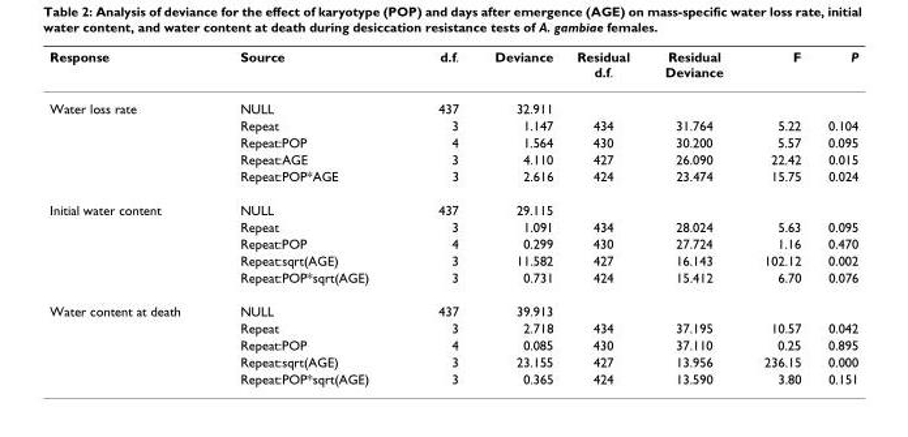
<table><thead><tr><td>Response</td><td>Source</td><td>d.f.</td><td>Deviance</td><td>Residual d.f.</td><td>Residual Deviance</td><td>F</td><td>P</td></tr></thead><tbody><tr><td rowspan="5">Water loss rate</td><td>NULL</td><td>437</td><td>32.911</td><td></td><td></td><td></td><td></td></tr><tr><td>Repeat</td><td>3</td><td>1.147</td><td>434</td><td>31.764</td><td>5.22</td><td>0.104</td></tr><tr><td>Repeat:POP</td><td>4</td><td>1.564</td><td>430</td><td>30.200</td><td>5.57</td><td>0.095</td></tr><tr><td>Repeat:AGE</td><td>3</td><td>4.110</td><td>427</td><td>26.090</td><td>22.42</td><td>0.015</td></tr><tr><td>Repeat:POP*AGE</td><td>3</td><td>2.616</td><td>424</td><td>23.474</td><td>15.75</td><td>0.024</td></tr><tr><td rowspan="5">Initial water content</td><td>NULL</td><td>437</td><td>29.115</td><td></td><td></td><td></td><td></td></tr><tr><td>Repeat</td><td>3</td><td>1.091</td><td>434</td><td>28.024</td><td>5.63</td><td>0.095</td></tr><tr><td>Repeat:POP</td><td>4</td><td>0.299</td><td>430</td><td>27.724</td><td>1.16</td><td>0.470</td></tr><tr><td>Repeat:sqrt(AGE)</td><td>3</td><td>11.582</td><td>427</td><td>16.143</td><td>102.12</td><td>0.002</td></tr><tr><td>Repeat:POP*sqrt(AGE)</td><td>3</td><td>0.731</td><td>424</td><td>15.412</td><td>6.70</td><td>0.076</td></tr><tr><td rowspan="5">Water content at death</td><td>NULL</td><td>437</td><td>39.913</td><td></td><td></td><td></td><td></td></tr><tr><td>Repeat</td><td>3</td><td>2.718</td><td>434</td><td>37.195</td><td>10.57</td><td>0.042</td></tr><tr><td>Repeat:POP</td><td>4</td><td>0.085</td><td>430</td><td>37.110</td><td>0.25</td><td>0.895</td></tr><tr><td>Repeat:sqrt(AGE)</td><td>3</td><td>23.155</td><td>427</td><td>13.956</td><td>236.15</td><td>0.000</td></tr><tr><td>Repeat:POP*sqrt(AGE)</td><td>3</td><td>0.365</td><td>424</td><td>13.590</td><td>3.80</td><td>0.151</td></tr></tbody></table>